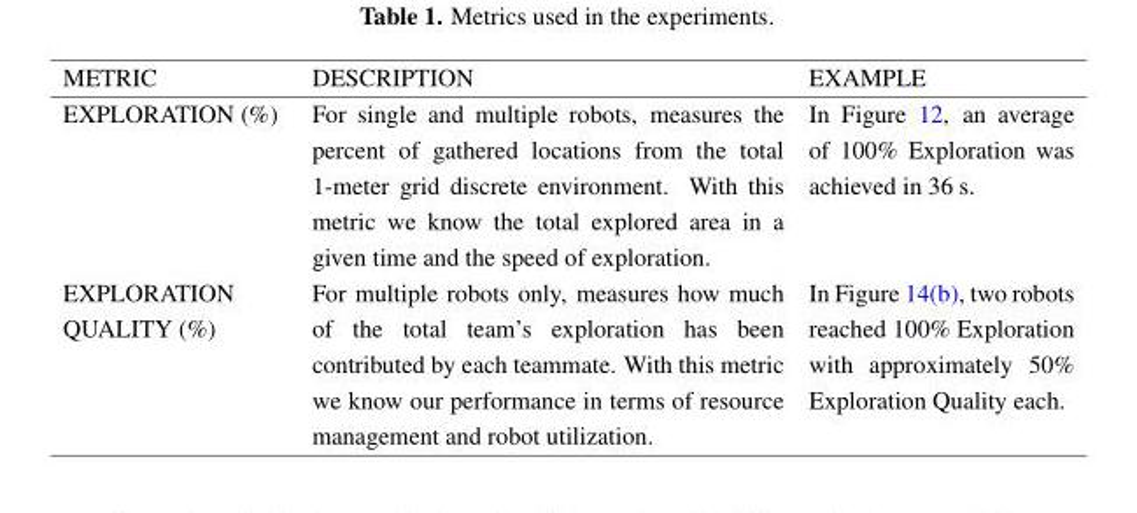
<table><thead><tr><td>METRIC</td><td>DESCRIPTION</td><td>EXAMPLE</td></tr></thead><tbody><tr><td>EXPLORATION (%)</td><td>For single and multiple robots, measures the percent of gathered locations from the total 1-meter grid discrete environment. With this metric we know the total explored area in a given time and the speed of exploration.</td><td>In Figure 12, an average of 100% Exploration was achieved in 36 s.</td></tr><tr><td>EXPLORATION QUALITY (%)</td><td>For multiple robots only, measures how much of the total team’s exploration has been contributed by each teammate. With this metric we know our performance in terms of resource management and robot utilization.</td><td>In Figure 14(b), two robots reached 100% Exploration with approximately 50% Exploration Quality each.</td></tr></tbody></table>